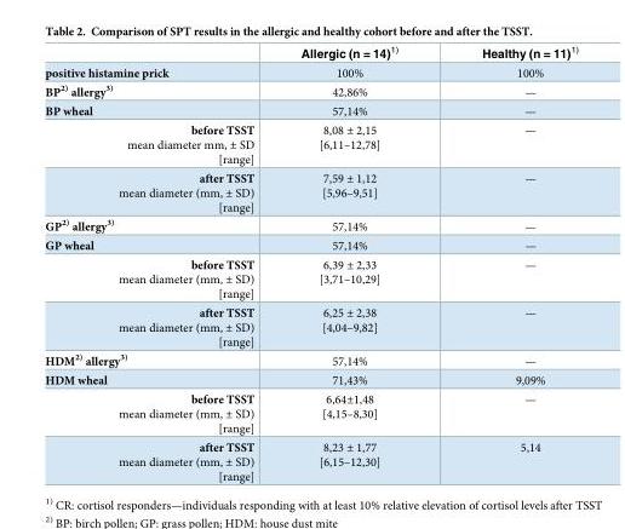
<table><thead><tr><td></td><td>Allergic (n = 14)<sup>1)</sup></td><td>Healthy (n = 11)<sup>1)</sup></td></tr></thead><tbody><tr><td>positive histamine prick</td><td>100%</td><td>100%</td></tr><tr><td>BP<sup>2)</sup> allergy<sup>3)</sup></td><td>42,86%</td><td>—</td></tr><tr><td>BP wheal</td><td>57,14%</td><td>—</td></tr><tr><td>before TSST mean diameter mm, ± SD [range]</td><td>8,08 ± 2,15 [6,11–12,78]</td><td>—</td></tr><tr><td>after TSST mean diameter (mm, ± SD) [range]</td><td>7,59 ± 1,12 [5,96–9,51]</td><td>—</td></tr><tr><td>GP<sup>2)</sup> allergy<sup>3)</sup></td><td>57,14%</td><td>—</td></tr><tr><td>GP wheal</td><td>57,14%</td><td>—</td></tr><tr><td>before TSST mean diameter (mm, ± SD) [range]</td><td>6,39 ± 2,33 [3,71–10,29]</td><td>—</td></tr><tr><td>after TSST mean diameter (mm, ± SD) [range]</td><td>6,25 ± 2,38 [4,04–9,82]</td><td>—</td></tr><tr><td>HDM<sup>2)</sup> allergy<sup>3)</sup></td><td>57,14%</td><td>—</td></tr><tr><td>HDM wheal</td><td>71,43%</td><td>9,09%</td></tr><tr><td>before TSST mean diameter (mm, ± SD) [range]</td><td>6,64±1,48 [4,15–8,30]</td><td>—</td></tr><tr><td>after TSST mean diameter (mm, ± SD) [range]</td><td>8,23 ± 1,77 [6,15–12,30]</td><td>5,14</td></tr></tbody></table>